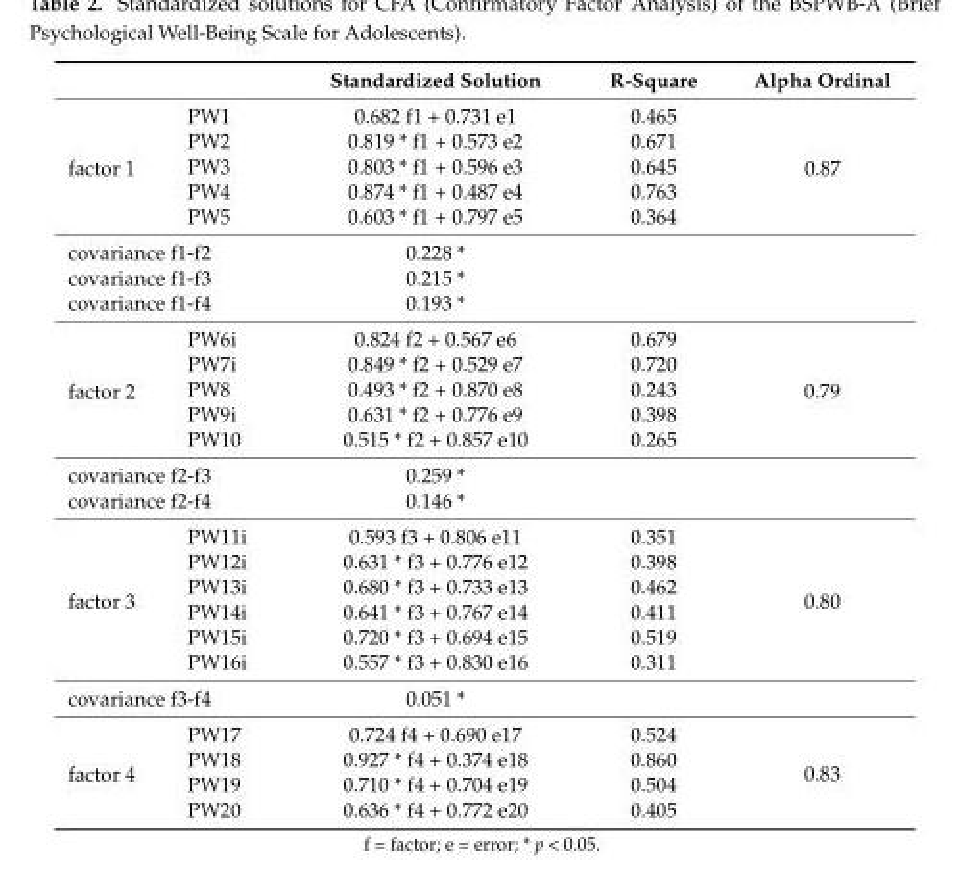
<table><thead><tr><td></td><td></td><td>Standardized Solution</td><td>R-Square</td><td>Alpha Ordinal</td></tr></thead><tbody><tr><td rowspan="5">factor 1</td><td>PW1</td><td>0.682 f1 + 0.731 e1</td><td>0.465</td><td rowspan="5">0.87</td></tr><tr><td>PW2</td><td>0.819 * f1 + 0.573 e2</td><td>0.671</td></tr><tr><td>PW3</td><td>0.803 * f1 + 0.596 e3</td><td>0.645</td></tr><tr><td>PW4</td><td>0.874 * f1 + 0.487 e4</td><td>0.763</td></tr><tr><td>PW5</td><td>0.603 * f1 + 0.797 e5</td><td>0.364</td></tr><tr><td colspan="2">covariance f1-f2</td><td>0.228 *</td><td></td><td></td></tr><tr><td colspan="2">covariance f1-f3</td><td>0.215 *</td><td></td><td></td></tr><tr><td colspan="2">covariance f1-f4</td><td>0.193 *</td><td></td><td></td></tr><tr><td rowspan="5">factor 2</td><td>PW6i</td><td>0.824 f2 + 0.567 e6</td><td>0.679</td><td rowspan="5">0.79</td></tr><tr><td>PW7i</td><td>0.849 * f2 + 0.529 e7</td><td>0.720</td></tr><tr><td>PW8</td><td>0.493 * f2 + 0.870 e8</td><td>0.243</td></tr><tr><td>PW9i</td><td>0.631 * f2 + 0.776 e9</td><td>0.398</td></tr><tr><td>PW10</td><td>0.515 * f2 + 0.857 e10</td><td>0.265</td></tr><tr><td colspan="2">covariance f2-f3</td><td>0.259 *</td><td></td><td></td></tr><tr><td colspan="2">covariance f2-f4</td><td>0.146 *</td><td></td><td></td></tr><tr><td rowspan="6">factor 3</td><td>PW11i</td><td>0.593 f3 + 0.806 e11</td><td>0.351</td><td rowspan="6">0.80</td></tr><tr><td>PW12i</td><td>0.631 * f3 + 0.776 e12</td><td>0.398</td></tr><tr><td>PW13i</td><td>0.680 * f3 + 0.733 e13</td><td>0.462</td></tr><tr><td>PW14i</td><td>0.641 * f3 + 0.767 e14</td><td>0.411</td></tr><tr><td>PW15i</td><td>0.720 * f3 + 0.694 e15</td><td>0.519</td></tr><tr><td>PW16i</td><td>0.557 * f3 + 0.830 e16</td><td>0.311</td></tr><tr><td colspan="2">covariance f3-f4</td><td>0.051 *</td><td></td><td></td></tr><tr><td rowspan="4">factor 4</td><td>PW17</td><td>0.724 f4 + 0.690 e17</td><td>0.524</td><td rowspan="4">0.83</td></tr><tr><td>PW18</td><td>0.927 * f4 + 0.374 e18</td><td>0.860</td></tr><tr><td>PW19</td><td>0.710 * f4 + 0.704 e19</td><td>0.504</td></tr><tr><td>PW20</td><td>0.636 * f4 + 0.772 e20</td><td>0.405</td></tr></tbody></table>